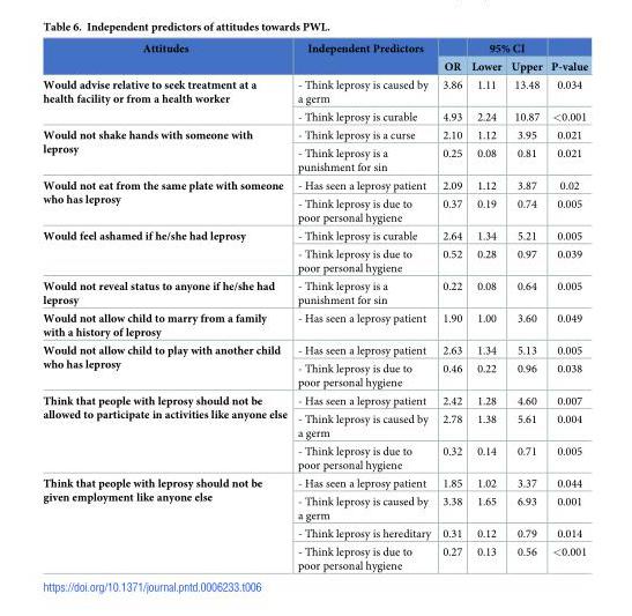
<table><thead><tr><td rowspan="2">Attitudes</td><td rowspan="2">Independent Predictors</td><td rowspan="2">OR</td><td colspan="2">95% CI</td><td rowspan="2">P-value</td></tr><tr><td>Lower</td><td>Upper</td></tr></thead><tbody><tr><td rowspan="2">Would advise relative to seek treatment at a health facility or from a health worker</td><td>- Think leprosy is caused by a germ</td><td>3.86</td><td>1.11</td><td>13.48</td><td>0.034</td></tr><tr><td>- Think leprosy is curable</td><td>4.93</td><td>2.24</td><td>10.87</td><td>&lt;0.001</td></tr><tr><td rowspan="2">Would not shake hands with someone with leprosy</td><td>- Think leprosy is a curse</td><td>2.10</td><td>1.12</td><td>3.95</td><td>0.021</td></tr><tr><td>- Think leprosy is a punishment for sin</td><td>0.25</td><td>0.08</td><td>0.81</td><td>0.021</td></tr><tr><td rowspan="2">Would not eat from the same plate with someone who has leprosy</td><td>- Has seen a leprosy patient</td><td>2.09</td><td>1.12</td><td>3.87</td><td>0.02</td></tr><tr><td>- Think leprosy is due to poor personal hygiene</td><td>0.37</td><td>0.19</td><td>0.74</td><td>0.005</td></tr><tr><td rowspan="2">Would feel ashamed if he/she had leprosy</td><td>- Think leprosy is curable</td><td>2.64</td><td>1.34</td><td>5.21</td><td>0.005</td></tr><tr><td>- Think leprosy is due to poor personal hygiene</td><td>0.52</td><td>0.28</td><td>0.97</td><td>0.039</td></tr><tr><td>Would not reveal status to anyone if he/she had leprosy</td><td>- Think leprosy is a punishment for sin</td><td>0.22</td><td>0.08</td><td>0.64</td><td>0.005</td></tr><tr><td>Would not allow child to marry from a family with a history of leprosy</td><td>- Has seen a leprosy patient</td><td>1.90</td><td>1.00</td><td>3.60</td><td>0.049</td></tr><tr><td rowspan="2">Would not allow child to play with another child who has leprosy</td><td>- Has seen a leprosy patient</td><td>2.63</td><td>1.34</td><td>5.13</td><td>0.005</td></tr><tr><td>- Think leprosy is due to poor personal hygiene</td><td>0.46</td><td>0.22</td><td>0.96</td><td>0.038</td></tr><tr><td rowspan="3">Think that people with leprosy should not be allowed to participate in activities like anyone else</td><td>- Has seen a leprosy patient</td><td>2.42</td><td>1.28</td><td>4.60</td><td>0.007</td></tr><tr><td>- Think leprosy is caused by a germ</td><td>2.78</td><td>1.38</td><td>5.61</td><td>0.004</td></tr><tr><td>- Think leprosy is due to poor personal hygiene</td><td>0.32</td><td>0.14</td><td>0.71</td><td>0.005</td></tr><tr><td rowspan="4">Think that people with leprosy should not be given employment like anyone else</td><td>- Has seen a leprosy patient</td><td>1.85</td><td>1.02</td><td>3.37</td><td>0.044</td></tr><tr><td>- Think leprosy is caused by a germ</td><td>3.38</td><td>1.65</td><td>6.93</td><td>0.001</td></tr><tr><td>- Think leprosy is hereditary</td><td>0.31</td><td>0.12</td><td>0.79</td><td>0.014</td></tr><tr><td>- Think leprosy is due to poor personal hygiene</td><td>0.27</td><td>0.13</td><td>0.56</td><td>&lt;0.001</td></tr></tbody></table>